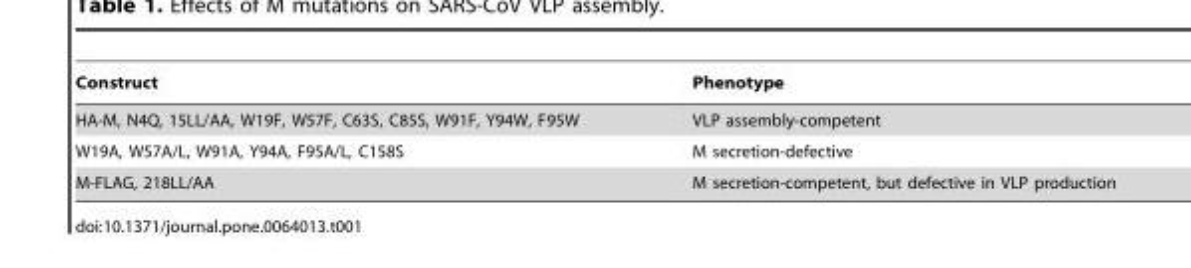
<table><thead><tr><td>Construct</td><td>Phenotype</td></tr></thead><tbody><tr><td>HA-M, N4Q, 15LL/AA, W19F, W57F, C63S, C85S, W91F, Y94W, F95W</td><td>VLP assembly-competent</td></tr><tr><td>W19A, W57A/L, W91A, Y94A, F95A/L, C158S</td><td>M secretion-defective</td></tr><tr><td>M-FLAG, 218LL/AA</td><td>M secretion-competent, but defective in VLP production</td></tr></tbody></table>